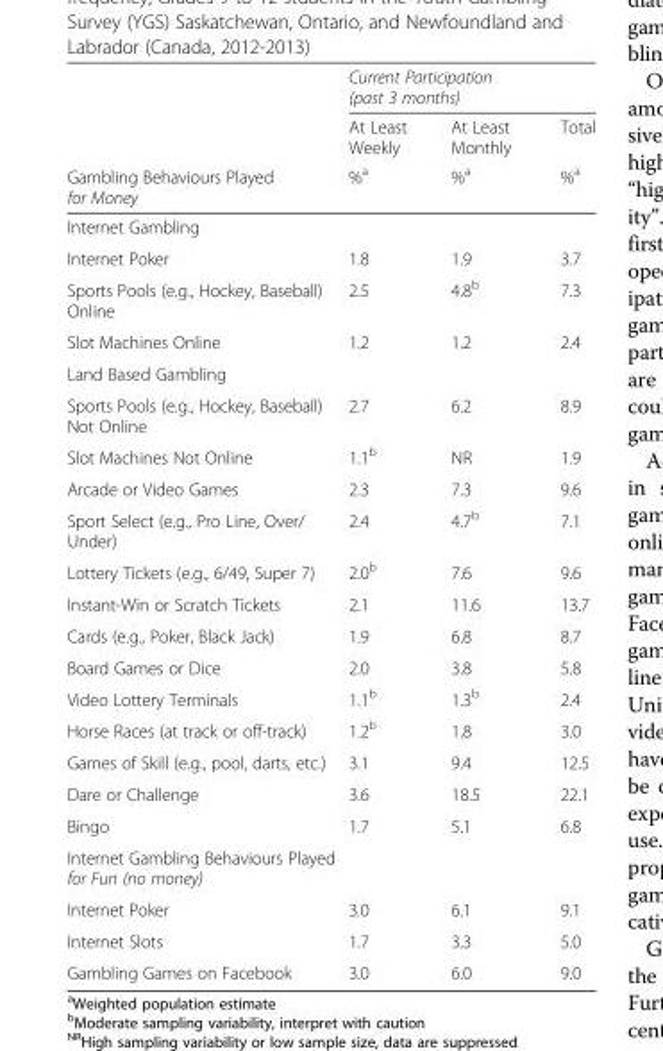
<table><thead><tr><td rowspan="3">Gambling Behaviours Played for Money</td><td colspan="3">Current Participation (past 3 months)</td></tr><tr><td rowspan="2">At Least Weekly %<sup>a</sup></td><td rowspan="2">At Least Monthly %<sup>a</sup></td><td rowspan="2">Total %<sup>a</sup></td></tr><tr></tr></thead><tbody><tr><td colspan="4">Internet Gambling</td></tr><tr><td>Internet Poker</td><td>1.8</td><td>1.9</td><td>3.7</td></tr><tr><td>Sports Pools (e.g., Hockey, Baseball) Online</td><td>2.5</td><td>4.8<sup>b</sup></td><td>7.3</td></tr><tr><td>Slot Machines Online</td><td>1.2</td><td>1.2</td><td>2.4</td></tr><tr><td colspan="4">Land Based Gambling</td></tr><tr><td>Sports Pools (e.g., Hockey, Baseball) Not Online</td><td>2.7</td><td>6.2</td><td>8.9</td></tr><tr><td>Slot Machines Not Online</td><td>1.1<sup>b</sup></td><td>NR</td><td>1.9</td></tr><tr><td>Arcade or Video Games</td><td>2.3</td><td>7.3</td><td>9.6</td></tr><tr><td>Sport Select (e.g., Pro Line, Over/ Under)</td><td>2.4</td><td>4.7<sup>b</sup></td><td>7.1</td></tr><tr><td>Lottery Tickets (e.g., 6/49, Super 7)</td><td>2.0<sup>b</sup></td><td>7.6</td><td>9.6</td></tr><tr><td>Instant-Win or Scratch Tickets</td><td>2.1</td><td>11.6</td><td>13.7</td></tr><tr><td>Cards (e.g., Poker, Black Jack)</td><td>1.9</td><td>6.8</td><td>8.7</td></tr><tr><td>Board Games or Dice</td><td>2.0</td><td>3.8</td><td>5.8</td></tr><tr><td>Video Lottery Terminals</td><td>1.1<sup>b</sup></td><td>1.3<sup>b</sup></td><td>2.4</td></tr><tr><td>Horse Races (at track or off-track)</td><td>1.2<sup>b</sup></td><td>1.8</td><td>3.0</td></tr><tr><td>Games of Skill (e.g., pool, darts, etc.)</td><td>3.1</td><td>9.4</td><td>12.5</td></tr><tr><td>Dare or Challenge</td><td>3.6</td><td>18.5</td><td>22.1</td></tr><tr><td>Bingo</td><td>1.7</td><td>5.1</td><td>6.8</td></tr><tr><td colspan="4">Internet Gambling Behaviours Played for Fun (no money)</td></tr><tr><td>Internet Poker</td><td>3.0</td><td>6.1</td><td>9.1</td></tr><tr><td>Internet Slots</td><td>1.7</td><td>3.3</td><td>5.0</td></tr><tr><td>Gambling Games on Facebook</td><td>3.0</td><td>6.0</td><td>9.0</td></tr></tbody></table>